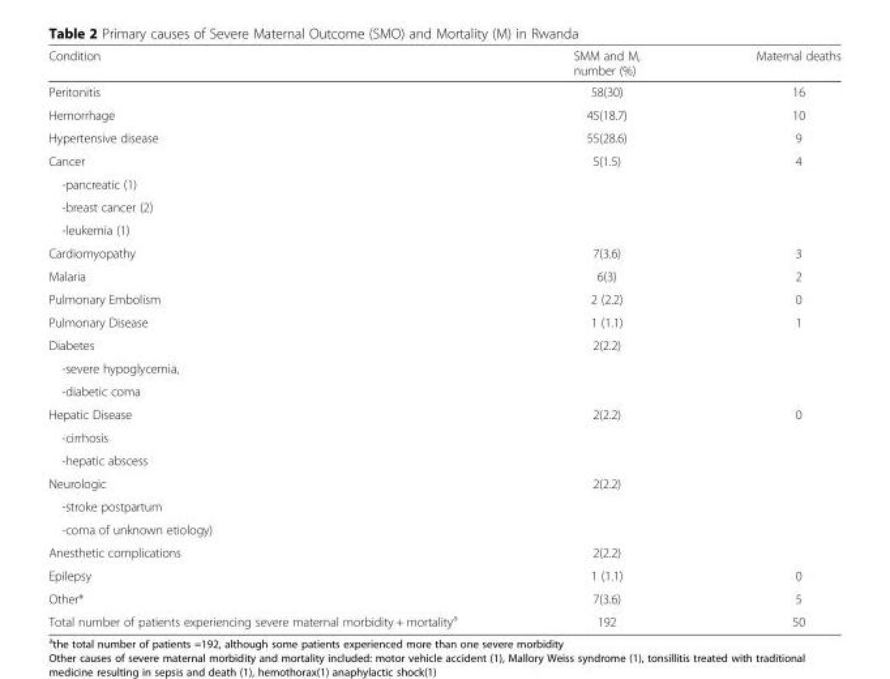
<table><thead><tr><td>Condition</td><td>SMM and M, number (%)</td><td>Maternal deaths</td></tr></thead><tbody><tr><td>Peritonitis</td><td>58(30)</td><td>16</td></tr><tr><td>Hemorrhage</td><td>45(18.7)</td><td>10</td></tr><tr><td>Hypertensive disease</td><td>55(28.6)</td><td>9</td></tr><tr><td>Cancer</td><td rowspan="4">5(1.5)</td><td rowspan="4">4</td></tr><tr><td>-pancreatic (1)</td></tr><tr><td>-breast cancer (2)</td></tr><tr><td>-leukemia (1)</td></tr><tr><td>Cardiomyopathy</td><td>7(3.6)</td><td>3</td></tr><tr><td>Malaria</td><td>6(3)</td><td>2</td></tr><tr><td>Pulmonary Embolism</td><td>2 (2.2)</td><td>0</td></tr><tr><td>Pulmonary Disease</td><td>1 (1.1)</td><td>1</td></tr><tr><td>Diabetes</td><td rowspan="3">2(2.2)</td><td rowspan="3"></td></tr><tr><td>-severe hypoglycemia,</td></tr><tr><td>-diabetic coma</td></tr><tr><td>Hepatic Disease</td><td rowspan="3">2(2.2)</td><td rowspan="3">0</td></tr><tr><td>-cirrhosis</td></tr><tr><td>-hepatic abscess</td></tr><tr><td>Neurologic</td><td rowspan="3">2(2.2)</td><td rowspan="3"></td></tr><tr><td>-stroke postpartum</td></tr><tr><td>-coma of unknown etiology)</td></tr><tr><td>Anesthetic complications</td><td>2(2.2)</td><td></td></tr><tr><td>Epilepsy</td><td>1 (1.1)</td><td>0</td></tr><tr><td>Other*</td><td>7(3.6)</td><td>5</td></tr><tr><td>Total number of patients experiencing severe maternal morbidity + mortality<sup>a</sup></td><td>192</td><td>50</td></tr></tbody></table>